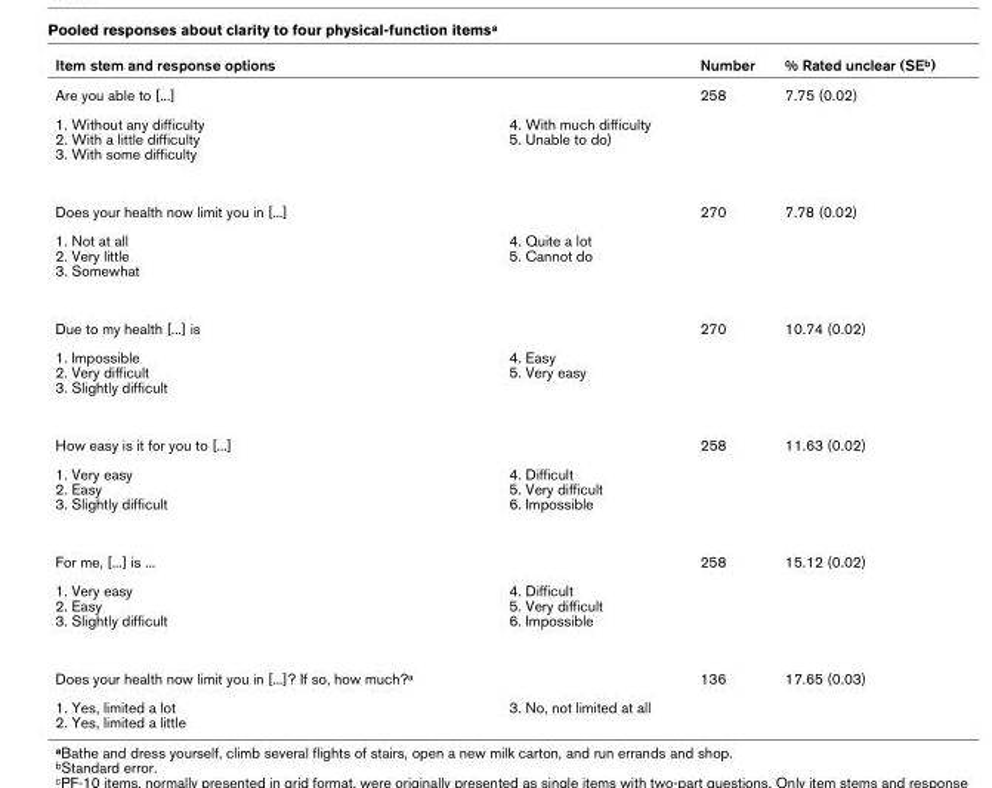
<table><thead><tr><td colspan="2">Item stem and response options</td><td rowspan="2">Number 258</td><td rowspan="2">% Rated unclear (SE<sup>b</sup>) 7.75 (0.02)</td></tr><tr><td>Are you able to [...]</td><td></td></tr></thead><tbody><tr><td>1. Without any difficulty 2. With a little difficulty 3. With some difficulty</td><td>4. With much difficulty 5. Unable to do)</td><td></td><td></td></tr><tr><td>Does your health now limit you in [...]</td><td></td><td>270</td><td>7.78 (0.02)</td></tr><tr><td>1. Not at all 2. Very little 3. Somewhat</td><td>4. Quite a lot 5. Cannot do</td><td></td><td></td></tr><tr><td>Due to my health [...] is</td><td></td><td>270</td><td>10.74 (0.02)</td></tr><tr><td>1. Impossible 2. Very difficult 3. Slightly difficult</td><td>4. Easy 5. Very easy</td><td></td><td></td></tr><tr><td>How easy is it for you to [...]</td><td></td><td>258</td><td>11.63 (0.02)</td></tr><tr><td>1. Very easy 2. Easy 3. Slightly difficult</td><td>4. Difficult 5. Very difficult 6. Impossible</td><td></td><td></td></tr><tr><td>For me, [...] is ...</td><td></td><td>258</td><td>15.12 (0.02)</td></tr><tr><td>1. Very easy 2. Easy 3. Slightly difficult</td><td>4. Difficult 5. Very difficult 6. Impossible</td><td></td><td></td></tr><tr><td>Does your health now limit you in [...]? If so, how much?<sup>a</sup></td><td></td><td>136</td><td>17.65 (0.03)</td></tr><tr><td>1. Yes, limited a lot 2. Yes, limited a little</td><td>3. No, not limited at all</td><td></td><td></td></tr></tbody></table>